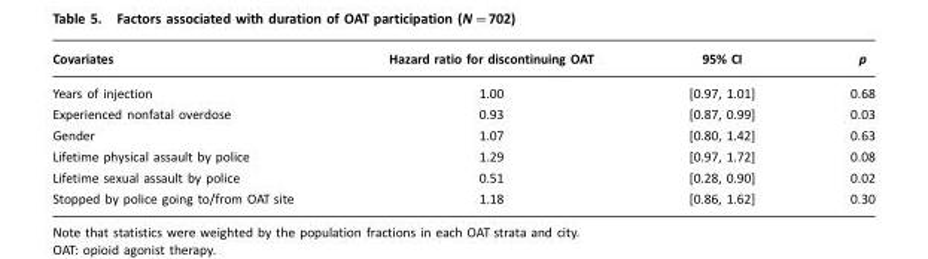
<table><thead><tr><td>Covariates</td><td>Hazard ratio for discontinuing OAT</td><td>95% CI</td><td>p</td></tr></thead><tbody><tr><td>Years of injection</td><td>1.00</td><td>[0.97, 1.01]</td><td>0.68</td></tr><tr><td>Experienced nonfatal overdose</td><td>0.93</td><td>[0.87, 0.99]</td><td>0.03</td></tr><tr><td>Gender</td><td>1.07</td><td>[0.80, 1.42]</td><td>0.63</td></tr><tr><td>Lifetime physical assault by police</td><td>1.29</td><td>[0.97, 1.72]</td><td>0.08</td></tr><tr><td>Lifetime sexual assault by police</td><td>0.51</td><td>[0.28, 0.90]</td><td>0.02</td></tr><tr><td>Stopped by police going to/from OAT site</td><td>1.18</td><td>[0.86, 1.62]</td><td>0.30</td></tr></tbody></table>